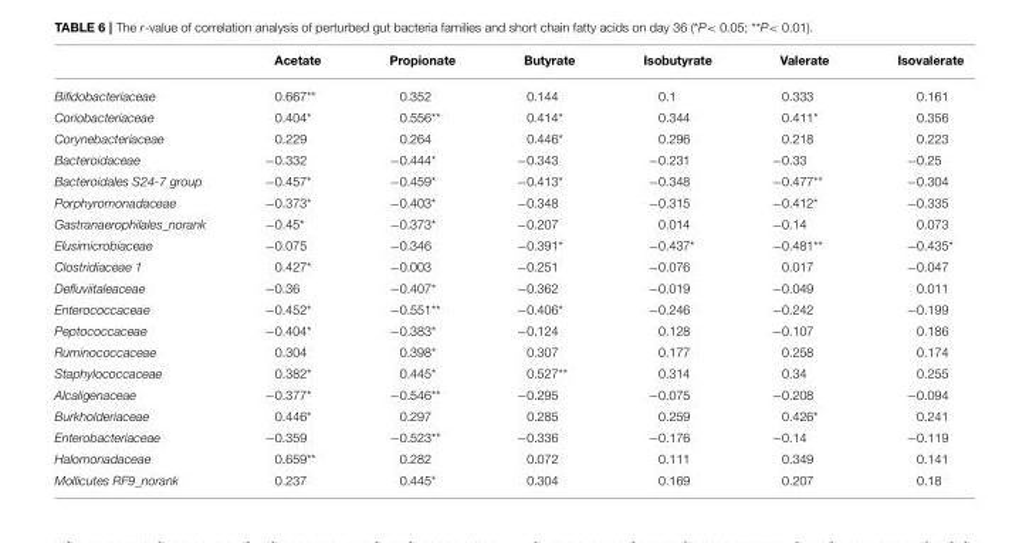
<table><thead><tr><td></td><td>Acetate</td><td>Propionate</td><td>Butyrate</td><td>Isobutyrate</td><td>Valerate</td><td>Isovalerate</td></tr></thead><tbody><tr><td>Bifidobacteriaceae</td><td>0.667**</td><td>0.352</td><td>0.144</td><td>0.1</td><td>0.333</td><td>0.161</td></tr><tr><td>Coriobacteriaceae</td><td>0.404*</td><td>0.556**</td><td>0.414*</td><td>0.344</td><td>0.411*</td><td>0.356</td></tr><tr><td>Corynebacteriaceae</td><td>0.229</td><td>0.264</td><td>0.446*</td><td>0.296</td><td>0.218</td><td>0.223</td></tr><tr><td>Bacteroidaceae</td><td>−0.332</td><td>−0.444*</td><td>−0.343</td><td>−0.231</td><td>−0.33</td><td>−0.25</td></tr><tr><td>Bacteroidales S24-7 group</td><td>−0.457*</td><td>−0.459*</td><td>−0.413*</td><td>−0.348</td><td>−0.477**</td><td>−0.304</td></tr><tr><td>Porphyromonadaceae</td><td>−0.373*</td><td>−0.403*</td><td>−0.348</td><td>−0.315</td><td>−0.412*</td><td>−0.335</td></tr><tr><td>Gastranaerophilales_norank</td><td>−0.45*</td><td>−0.373*</td><td>−0.207</td><td>0.014</td><td>−0.14</td><td>0.073</td></tr><tr><td>Elusimicrobiaceae</td><td>−0.075</td><td>−0.346</td><td>−0.391*</td><td>−0.437*</td><td>−0.481**</td><td>−0.435*</td></tr><tr><td>Clostridiaceae 1</td><td>0.427*</td><td>−0.003</td><td>−0.251</td><td>−0.076</td><td>0.017</td><td>−0.047</td></tr><tr><td>Defluviitaleaceae</td><td>−0.36</td><td>−0.407*</td><td>−0.362</td><td>−0.019</td><td>−0.049</td><td>0.011</td></tr><tr><td>Enterococcaceae</td><td>−0.452*</td><td>−0.551**</td><td>−0.406*</td><td>−0.246</td><td>−0.242</td><td>−0.199</td></tr><tr><td>Peptococcaceae</td><td>−0.404*</td><td>−0.383*</td><td>−0.124</td><td>0.128</td><td>−0.107</td><td>0.186</td></tr><tr><td>Ruminococcaceae</td><td>0.304</td><td>0.398*</td><td>0.307</td><td>0.177</td><td>0.258</td><td>0.174</td></tr><tr><td>Staphylococcaceae</td><td>0.382*</td><td>0.445*</td><td>0.527**</td><td>0.314</td><td>0.34</td><td>0.255</td></tr><tr><td>Alcaligenaceae</td><td>−0.377*</td><td>−0.546**</td><td>−0.295</td><td>−0.075</td><td>−0.208</td><td>−0.094</td></tr><tr><td>Burkholderiaceae</td><td>0.446*</td><td>0.297</td><td>0.285</td><td>0.259</td><td>0.426*</td><td>0.241</td></tr><tr><td>Enterobacteriaceae</td><td>−0.359</td><td>−0.523**</td><td>−0.336</td><td>−0.176</td><td>−0.14</td><td>−0.119</td></tr><tr><td>Halomonadaceae</td><td>0.659**</td><td>0.282</td><td>0.072</td><td>0.111</td><td>0.349</td><td>0.141</td></tr><tr><td>Mollicutes RF9_norank</td><td>0.237</td><td>0.445*</td><td>0.304</td><td>0.169</td><td>0.207</td><td>0.18</td></tr></tbody></table>